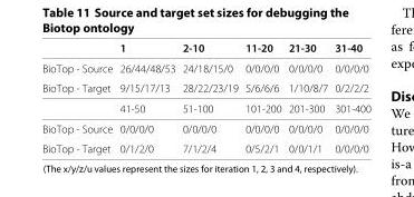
<table><thead><tr><td></td><td>1</td><td>2-10</td><td>11-20</td><td>21-30</td><td>31-40</td></tr></thead><tbody><tr><td>BioTop - Source</td><td>26/44/48/53</td><td>24/18/15/0</td><td>0/0/0/0</td><td>0/0/0/0</td><td>0/0/0/0</td></tr><tr><td rowspan="2">BioTop - Target</td><td>9/15/17/13</td><td>28/22/23/19</td><td>5/6/6/6</td><td>1/10/8/7</td><td>0/2/2/2</td></tr><tr><td>41-50</td><td>51-100</td><td>101-200</td><td>201-300</td><td>301-400</td></tr><tr><td>BioTop - Source</td><td>0/0/0/0</td><td>0/0/0/0</td><td>0/0/0/0</td><td>0/0/0/0</td><td>0/0/0/0</td></tr><tr><td>BioTop - Target</td><td>0/1/2/0</td><td>7/1/2/4</td><td>0/5/2/1</td><td>0/0/1/1</td><td>0/0/0/0</td></tr></tbody></table>